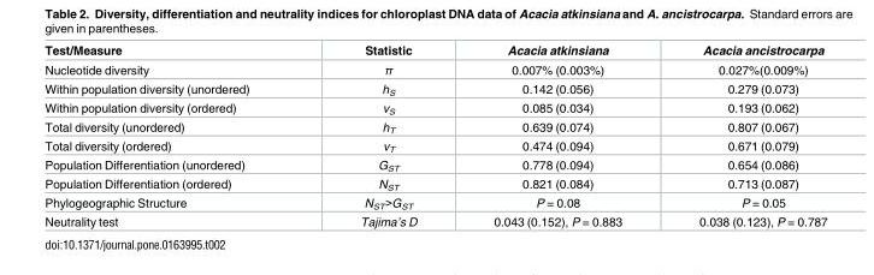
<table><thead><tr><td>Test/Measure</td><td>Statistic</td><td>Acacia atkinsiana</td><td>Acacia ancistrocarpa</td></tr></thead><tbody><tr><td>Nucleotide diversity</td><td>π</td><td>0.007% (0.003%)</td><td>0.027%(0.009%)</td></tr><tr><td>Within population diversity (unordered)</td><td>h<sub>S</sub></td><td>0.142 (0.056)</td><td>0.279 (0.073)</td></tr><tr><td>Within population diversity (ordered)</td><td>v<sub>S</sub></td><td>0.085 (0.034)</td><td>0.193 (0.062)</td></tr><tr><td>Total diversity (unordered)</td><td>h<sub>T</sub></td><td>0.639 (0.074)</td><td>0.807 (0.067)</td></tr><tr><td>Total diversity (ordered)</td><td>v<sub>T</sub></td><td>0.474 (0.094)</td><td>0.671 (0.079)</td></tr><tr><td>Population Differentiation (unordered)</td><td>G<sub>ST</sub></td><td>0.778 (0.094)</td><td>0.654 (0.086)</td></tr><tr><td>Population Differentiation (ordered)</td><td>N<sub>ST</sub></td><td>0.821 (0.084)</td><td>0.713 (0.087)</td></tr><tr><td>Phylogeographic Structure</td><td>N<sub>ST</sub>&gt;G<sub>ST</sub></td><td>P = 0.08</td><td>P = 0.05</td></tr><tr><td>Neutrality test</td><td>Tajima’s D</td><td>0.043 (0.152), P = 0.883</td><td>0.038 (0.123), P = 0.787</td></tr></tbody></table>